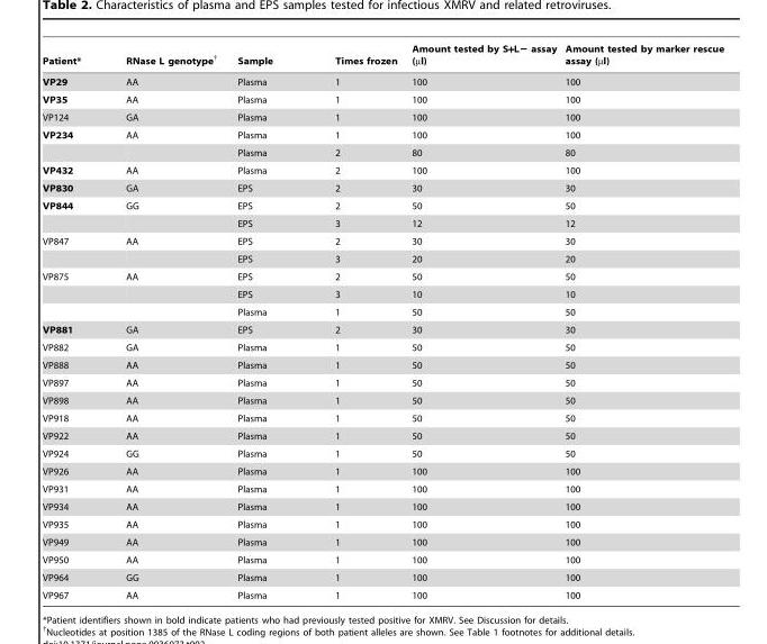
<table><thead><tr><td>Patient*</td><td>RNase L genotype†</td><td>Sample</td><td>Times frozen</td><td>Amount tested by S+L− assay (µl)</td><td>Amount tested by marker rescue assay (µl)</td></tr></thead><tbody><tr><td>VP29</td><td>AA</td><td>Plasma</td><td>1</td><td>100</td><td>100</td></tr><tr><td>VP35</td><td>AA</td><td>Plasma</td><td>1</td><td>100</td><td>100</td></tr><tr><td>VP124</td><td>GA</td><td>Plasma</td><td>1</td><td>100</td><td>100</td></tr><tr><td rowspan="2">VP234</td><td>AA</td><td>Plasma</td><td>1</td><td>100</td><td>100</td></tr><tr><td></td><td>Plasma</td><td>2</td><td>80</td><td>80</td></tr><tr><td>VP432</td><td>AA</td><td>Plasma</td><td>2</td><td>100</td><td>100</td></tr><tr><td>VP830</td><td>GA</td><td>EPS</td><td>2</td><td>30</td><td>30</td></tr><tr><td rowspan="2">VP844</td><td>GG</td><td>EPS</td><td>2</td><td>50</td><td>50</td></tr><tr><td></td><td>EPS</td><td>3</td><td>12</td><td>12</td></tr><tr><td rowspan="2">VP847</td><td>AA</td><td>EPS</td><td>2</td><td>30</td><td>30</td></tr><tr><td></td><td>EPS</td><td>3</td><td>20</td><td>20</td></tr><tr><td rowspan="3">VP875</td><td>AA</td><td>EPS</td><td>2</td><td>50</td><td>50</td></tr><tr><td></td><td>EPS</td><td>3</td><td>10</td><td>10</td></tr><tr><td></td><td>Plasma</td><td>1</td><td>50</td><td>50</td></tr><tr><td>VP881</td><td>GA</td><td>EPS</td><td>2</td><td>30</td><td>30</td></tr><tr><td>VP882</td><td>GA</td><td>Plasma</td><td>1</td><td>50</td><td>50</td></tr><tr><td>VP888</td><td>AA</td><td>Plasma</td><td>1</td><td>50</td><td>50</td></tr><tr><td>VP897</td><td>AA</td><td>Plasma</td><td>1</td><td>50</td><td>50</td></tr><tr><td>VP898</td><td>AA</td><td>Plasma</td><td>1</td><td>50</td><td>50</td></tr><tr><td>VP918</td><td>AA</td><td>Plasma</td><td>1</td><td>50</td><td>50</td></tr><tr><td>VP922</td><td>AA</td><td>Plasma</td><td>1</td><td>50</td><td>50</td></tr><tr><td>VP924</td><td>GG</td><td>Plasma</td><td>1</td><td>50</td><td>50</td></tr><tr><td>VP926</td><td>AA</td><td>Plasma</td><td>1</td><td>100</td><td>100</td></tr><tr><td>VP931</td><td>AA</td><td>Plasma</td><td>1</td><td>100</td><td>100</td></tr><tr><td>VP934</td><td>AA</td><td>Plasma</td><td>1</td><td>100</td><td>100</td></tr><tr><td>VP935</td><td>AA</td><td>Plasma</td><td>1</td><td>100</td><td>100</td></tr><tr><td>VP949</td><td>AA</td><td>Plasma</td><td>1</td><td>100</td><td>100</td></tr><tr><td>VP950</td><td>AA</td><td>Plasma</td><td>1</td><td>100</td><td>100</td></tr><tr><td>VP964</td><td>GG</td><td>Plasma</td><td>1</td><td>100</td><td>100</td></tr><tr><td>VP967</td><td>AA</td><td>Plasma</td><td>1</td><td>100</td><td>100</td></tr></tbody></table>